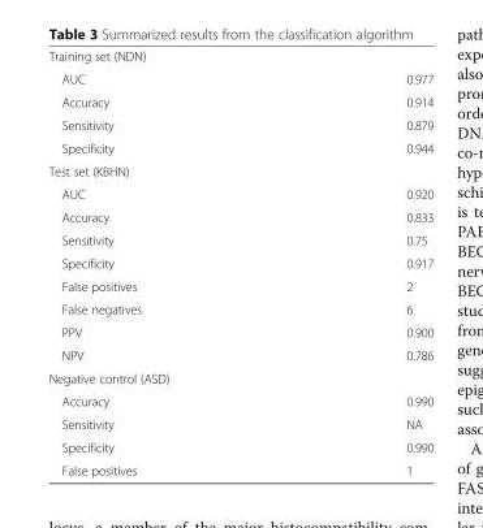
<table><tbody><tr><td colspan="2">Training set (NDN)</td></tr><tr><td>AUC</td><td>0.977</td></tr><tr><td>Accuracy</td><td>0.914</td></tr><tr><td>Sensitivity</td><td>0.879</td></tr><tr><td>Specificity</td><td>0.944</td></tr><tr><td colspan="2">Test set (KBHN)</td></tr><tr><td>AUC</td><td>0.920</td></tr><tr><td>Accuracy</td><td>0.833</td></tr><tr><td>Sensitivity</td><td>0.75</td></tr><tr><td>Specificity</td><td>0.917</td></tr><tr><td>False positives</td><td>2</td></tr><tr><td>False negatives</td><td>6</td></tr><tr><td>PPV</td><td>0.900</td></tr><tr><td>NPV</td><td>0.786</td></tr><tr><td colspan="2">Negative control (ASD)</td></tr><tr><td>Accuracy</td><td>0.990</td></tr><tr><td>Sensitivity</td><td>NA</td></tr><tr><td>Specificity</td><td>0.990</td></tr><tr><td>False positives</td><td>1</td></tr></tbody></table>